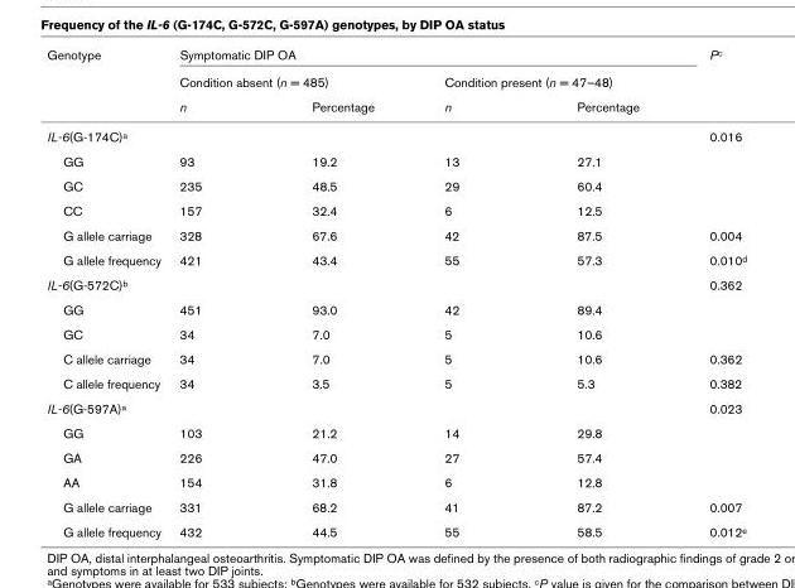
<table><thead><tr><td rowspan="3">Genotype</td><td colspan="4">Symptomatic DIP OA</td><td rowspan="3">P<sup>c</sup></td></tr><tr><td colspan="2">Condition absent (n = 485)</td><td colspan="2">Condition present (n = 47–48)</td></tr><tr><td>n</td><td>Percentage</td><td>n</td><td>Percentage</td></tr></thead><tbody><tr><td>IL-6(G-174C)<sup>a</sup></td><td></td><td></td><td></td><td></td><td>0.016</td></tr><tr><td>GG</td><td>93</td><td>19.2</td><td>13</td><td>27.1</td><td></td></tr><tr><td>GC</td><td>235</td><td>48.5</td><td>29</td><td>60.4</td><td></td></tr><tr><td>CC</td><td>157</td><td>32.4</td><td>6</td><td>12.5</td><td></td></tr><tr><td>G allele carriage</td><td>328</td><td>67.6</td><td>42</td><td>87.5</td><td>0.004</td></tr><tr><td>G allele frequency</td><td>421</td><td>43.4</td><td>55</td><td>57.3</td><td>0.010<sup>d</sup></td></tr><tr><td>IL-6(G-572C)<sup>b</sup></td><td></td><td></td><td></td><td></td><td>0.362</td></tr><tr><td>GG</td><td>451</td><td>93.0</td><td>42</td><td>89.4</td><td></td></tr><tr><td>GC</td><td>34</td><td>7.0</td><td>5</td><td>10.6</td><td></td></tr><tr><td>C allele carriage</td><td>34</td><td>7.0</td><td>5</td><td>10.6</td><td>0.362</td></tr><tr><td>C allele frequency</td><td>34</td><td>3.5</td><td>5</td><td>5.3</td><td>0.382</td></tr><tr><td>IL-6(G-597A)<sup>a</sup></td><td></td><td></td><td></td><td></td><td>0.023</td></tr><tr><td>GG</td><td>103</td><td>21.2</td><td>14</td><td>29.8</td><td></td></tr><tr><td>GA</td><td>226</td><td>47.0</td><td>27</td><td>57.4</td><td></td></tr><tr><td>AA</td><td>154</td><td>31.8</td><td>6</td><td>12.8</td><td></td></tr><tr><td>G allele carriage</td><td>331</td><td>68.2</td><td>41</td><td>87.2</td><td>0.007</td></tr><tr><td>G allele frequency</td><td>432</td><td>44.5</td><td>55</td><td>58.5</td><td>0.012<sup>e</sup></td></tr></tbody></table>